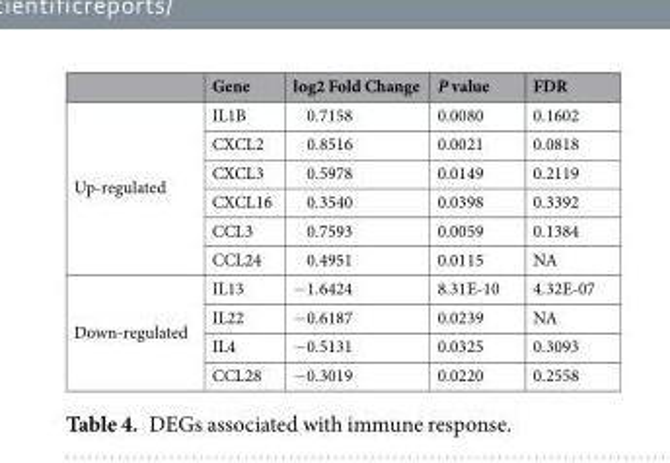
<table><thead><tr><td></td><td>Gene</td><td>log2 Fold Change</td><td>P value</td><td>FDR</td></tr></thead><tbody><tr><td rowspan="6">Up-regulated</td><td>IL1B</td><td>0.7158</td><td>0.0080</td><td>0.1602</td></tr><tr><td>CXCL2</td><td>0.8516</td><td>0.0021</td><td>0.0818</td></tr><tr><td>CXCL3</td><td>0.5978</td><td>0.0149</td><td>0.2119</td></tr><tr><td>CXCL16</td><td>0.3540</td><td>0.0398</td><td>0.3392</td></tr><tr><td>CCL3</td><td>0.7593</td><td>0.0059</td><td>0.1384</td></tr><tr><td>CCL24</td><td>0.4951</td><td>0.0115</td><td>NA</td></tr><tr><td rowspan="4">Down-regulated</td><td>IL13</td><td>−1.6424</td><td>8.31E-10</td><td>4.32E-07</td></tr><tr><td>IL22</td><td>−0.6187</td><td>0.0239</td><td>NA</td></tr><tr><td>IL4</td><td>−0.5131</td><td>0.0325</td><td>0.3093</td></tr><tr><td>CCL28</td><td>−0.3019</td><td>0.0220</td><td>0.2558</td></tr></tbody></table>